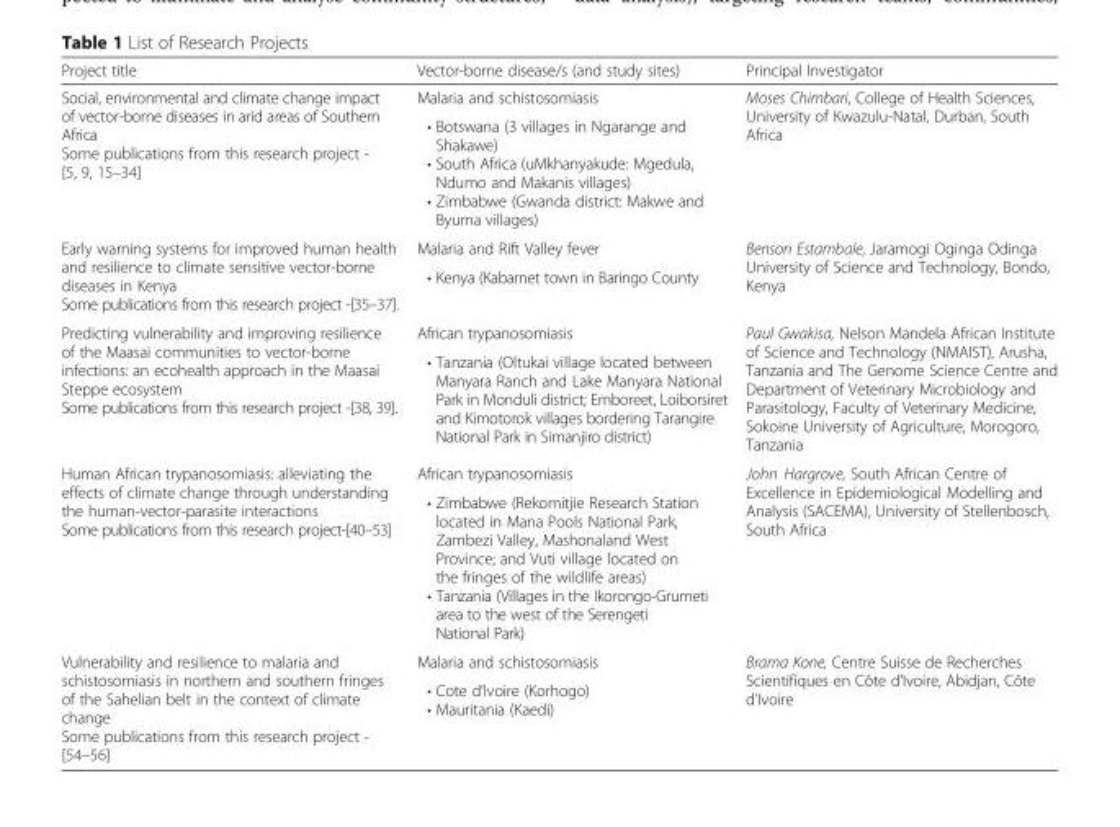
<table><thead><tr><td>Project title</td><td>Vector-borne disease/s (and study sites)</td><td>Principal Investigator</td></tr></thead><tbody><tr><td rowspan="2">Social, environmental and climate change impact of vector-borne diseases in arid areas of Southern Africa Some publications from this research project - [5, 9, 15–34]</td><td>Malaria and schistosomiasis</td><td rowspan="2">Moses Chimbari, College of Health Sciences, University of Kwazulu-Natal, Durban, South Africa</td></tr><tr><td>• Botswana (3 villages in Ngarange and Shakawe) • South Africa (uMkhanyakude: Mgedula, Ndumo and Makanis villages) • Zimbabwe (Gwanda district: Makwe and Byuma villages)</td></tr><tr><td rowspan="2">Early warning systems for improved human health and resilience to climate sensitive vector-borne diseases in Kenya Some publications from this research project -[35–37].</td><td>Malaria and Rift Valley fever</td><td rowspan="2">Benson Estambale, Jaramogi Oginga Odinga University of Science and Technology, Bondo, Kenya</td></tr><tr><td>• Kenya (Kabarnet town in Baringo County</td></tr><tr><td rowspan="2">Predicting vulnerability and improving resilience of the Maasai communities to vector-borne infections: an ecohealth approach in the Maasai Steppe ecosystem Some publications from this research project -[38, 39].</td><td>African trypanosomiasis</td><td rowspan="2">Paul Gwakisa, Nelson Mandela African Institute of Science and Technology (NMAIST), Arusha, Tanzania and The Genome Science Centre and Department of Veterinary Microbiology and Parasitology, Faculty of Veterinary Medicine, Sokoine University of Agriculture, Morogoro, Tanzania</td></tr><tr><td>• Tanzania (Oltukai village located between Manyara Ranch and Lake Manyara National Park in Monduli district; Emboreet, Loiborsiret and Kimotorok villages bordering Tarangire National Park in Simanjiro district)</td></tr><tr><td rowspan="2">Human African trypanosomiasis: alleviating the effects of climate change through understanding the human-vector-parasite interactions Some publications from this research project-[40–53]</td><td>African trypanosomiasis</td><td rowspan="2">John Hargrove, South African Centre of Excellence in Epidemiological Modelling and Analysis (SACEMA), University of Stellenbosch, South Africa</td></tr><tr><td>• Zimbabwe (Rekomitjie Research Station located in Mana Pools National Park, Zambezi Valley, Mashonaland West Province; and Vuti village located on the fringes of the wildlife areas) • Tanzania (Villages in the Ikorongo-Grumeti area to the west of the Serengeti National Park)</td></tr><tr><td rowspan="2">Vulnerability and resilience to malaria and schistosomiasis in northern and southern fringes of the Sahelian belt in the context of climate change Some publications from this research project - [54–56]</td><td>Malaria and schistosomiasis</td><td rowspan="2">Brama Kone, Centre Suisse de Recherches Scientifiques en Côte d’Ivoire, Abidjan, Côte d’Ivoire</td></tr><tr><td>• Cote d’Ivoire (Korhogo) • Mauritania (Kaedi)</td></tr></tbody></table>